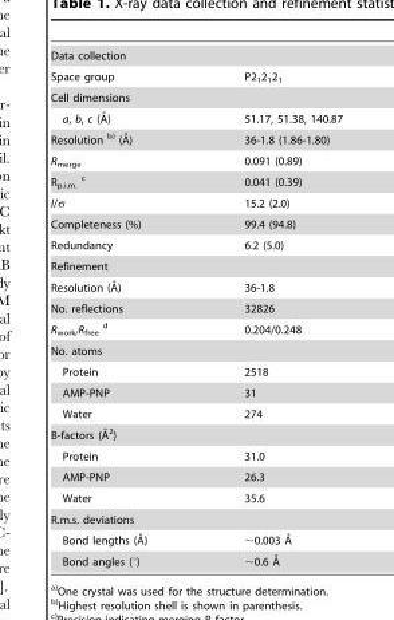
<table><tbody><tr><td colspan="2">Data collection</td></tr><tr><td>Space group</td><td>P2<sub>1</sub>2<sub>1</sub>2<sub>1</sub></td></tr><tr><td colspan="2">Cell dimensions</td></tr><tr><td>a, b, c (A˚)</td><td>51.17, 51.38, 140.87</td></tr><tr><td>Resolution b) (A˚)</td><td>36-1.8 (1.86-1.80)</td></tr><tr><td>R<sub>merge</sub></td><td>0.091 (0.89)</td></tr><tr><td>R<sub>p.i.m.</sub> <sup>c</sup></td><td>0.041 (0.39)</td></tr><tr><td>I/σ</td><td>15.2 (2.0)</td></tr><tr><td>Completeness (%)</td><td>99.4 (94.8)</td></tr><tr><td>Redundancy</td><td>6.2 (5.0)</td></tr><tr><td colspan="2">Refinement</td></tr><tr><td>Resolution (A˚)</td><td>36-1.8</td></tr><tr><td>No. reflections</td><td>32826</td></tr><tr><td>R<sub>work/</sub>R<sub>free</sub> <sup>d</sup></td><td>0.204/0.248</td></tr><tr><td colspan="2">No. atoms</td></tr><tr><td>Protein</td><td>2518</td></tr><tr><td>AMP-PNP</td><td>31</td></tr><tr><td>Water</td><td>274</td></tr><tr><td colspan="2">B-factors (A˚ 2)</td></tr><tr><td>Protein</td><td>31.0</td></tr><tr><td>AMP-PNP</td><td>26.3</td></tr><tr><td>Water</td><td>35.6</td></tr><tr><td colspan="2">R.m.s. deviations</td></tr><tr><td>Bond lengths (A˚)</td><td>,0.003 A˚</td></tr><tr><td>Bond angles (°)</td><td>,0.6 A˚</td></tr></tbody></table>